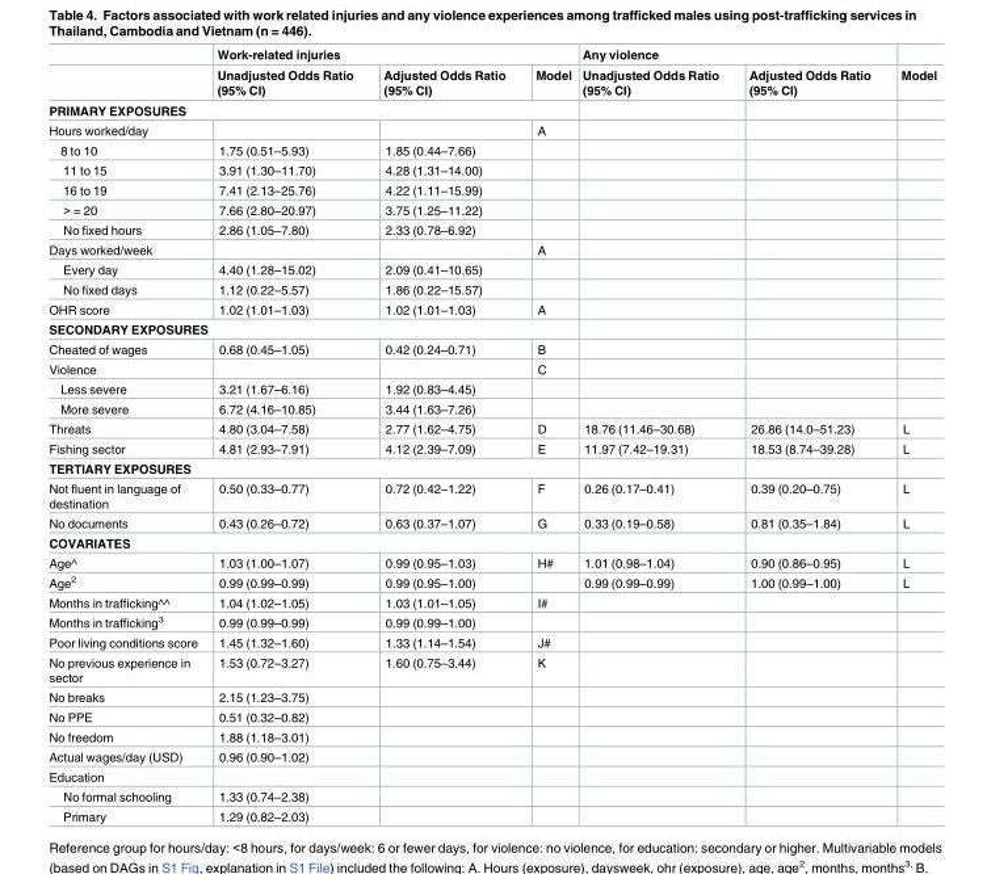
<table><thead><tr><td rowspan="2"></td><td colspan="3">Work-related injuries</td><td colspan="2">Any violence</td><td rowspan="2">Model</td></tr><tr><td>Unadjusted Odds Ratio (95% CI)</td><td>Adjusted Odds Ratio (95% CI)</td><td>Model</td><td>Unadjusted Odds Ratio (95% CI)</td><td>Adjusted Odds Ratio (95% CI)</td></tr></thead><tbody><tr><td colspan="7">PRIMARY EXPOSURES</td></tr><tr><td>Hours worked/day</td><td></td><td></td><td>A</td><td></td><td></td><td></td></tr><tr><td>8 to 10</td><td>1.75 (0.51–5.93)</td><td>1.85 (0.44–7.66)</td><td></td><td></td><td></td><td></td></tr><tr><td>11 to 15</td><td>3.91 (1.30–11.70)</td><td>4.28 (1.31–14.00)</td><td></td><td></td><td></td><td></td></tr><tr><td>16 to 19</td><td>7.41 (2.13–25.76)</td><td>4.22 (1.11–15.99)</td><td></td><td></td><td></td><td></td></tr><tr><td>&gt; = 20</td><td>7.66 (2.80–20.97)</td><td>3.75 (1.25–11.22)</td><td></td><td></td><td></td><td></td></tr><tr><td>No fixed hours</td><td>2.86 (1.05–7.80)</td><td>2.33 (0.78–6.92)</td><td></td><td></td><td></td><td></td></tr><tr><td>Days worked/week</td><td></td><td></td><td>A</td><td></td><td></td><td></td></tr><tr><td>Every day</td><td>4.40 (1.28–15.02)</td><td>2.09 (0.41–10.65)</td><td></td><td></td><td></td><td></td></tr><tr><td>No fixed days</td><td>1.12 (0.22–5.57)</td><td>1.86 (0.22–15.57)</td><td></td><td></td><td></td><td></td></tr><tr><td>OHR score</td><td>1.02 (1.01–1.03)</td><td>1.02 (1.01–1.03)</td><td>A</td><td></td><td></td><td></td></tr><tr><td colspan="7">SECONDARY EXPOSURES</td></tr><tr><td>Cheated of wages</td><td>0.68 (0.45–1.05)</td><td>0.42 (0.24–0.71)</td><td>B</td><td></td><td></td><td></td></tr><tr><td>Violence</td><td></td><td></td><td>C</td><td></td><td></td><td></td></tr><tr><td>Less severe</td><td>3.21 (1.67–6.16)</td><td>1.92 (0.83–4.45)</td><td></td><td></td><td></td><td></td></tr><tr><td>More severe</td><td>6.72 (4.16–10.85)</td><td>3.44 (1.63–7.26)</td><td></td><td></td><td></td><td></td></tr><tr><td>Threats</td><td>4.80 (3.04–7.58)</td><td>2.77 (1.62–4.75)</td><td>D</td><td>18.76 (11.46–30.68)</td><td>26.86 (14.0–51.23)</td><td>L</td></tr><tr><td>Fishing sector</td><td>4.81 (2.93–7.91)</td><td>4.12 (2.39–7.09)</td><td>E</td><td>11.97 (7.42–19.31)</td><td>18.53 (8.74–39.28)</td><td>L</td></tr><tr><td colspan="7">TERTIARY EXPOSURES</td></tr><tr><td>Not fluent in language of destination</td><td>0.50 (0.33–0.77)</td><td>0.72 (0.42–1.22)</td><td>F</td><td>0.26 (0.17–0.41)</td><td>0.39 (0.20–0.75)</td><td>L</td></tr><tr><td>No documents</td><td>0.43 (0.26–0.72)</td><td>0.63 (0.37–1.07)</td><td>G</td><td>0.33 (0.19–0.58)</td><td>0.81 (0.35–1.84)</td><td>L</td></tr><tr><td colspan="7">COVARIATES</td></tr><tr><td>Age^</td><td>1.03 (1.00–1.07)</td><td>0.99 (0.95–1.03)</td><td>H#</td><td>1.01 (0.98–1.04)</td><td>0.90 (0.86–0.95)</td><td>L</td></tr><tr><td>Age<sup>2</sup></td><td>0.99 (0.99–0.99)</td><td>0.99 (0.95–1.00)</td><td></td><td>0.99 (0.99–0.99)</td><td>1.00 (0.99–1.00)</td><td>L</td></tr><tr><td>Months in trafficking^^</td><td>1.04 (1.02–1.05)</td><td>1.03 (1.01–1.05)</td><td>I#</td><td></td><td></td><td></td></tr><tr><td>Months in trafficking<sup>3</sup></td><td>0.99 (0.99–0.99)</td><td>0.99 (0.99–1.00)</td><td></td><td></td><td></td><td></td></tr><tr><td>Poor living conditions score</td><td>1.45 (1.32–1.60)</td><td>1.33 (1.14–1.54)</td><td>J#</td><td></td><td></td><td></td></tr><tr><td>No previous experience in sector</td><td>1.53 (0.72–3.27)</td><td>1.60 (0.75–3.44)</td><td>K</td><td></td><td></td><td></td></tr><tr><td>No breaks</td><td>2.15 (1.23–3.75)</td><td></td><td></td><td></td><td></td><td></td></tr><tr><td>No PPE</td><td>0.51 (0.32–0.82)</td><td></td><td></td><td></td><td></td><td></td></tr><tr><td>No freedom</td><td>1.88 (1.18–3.01)</td><td></td><td></td><td></td><td></td><td></td></tr><tr><td>Actual wages/day (USD)</td><td>0.96 (0.90–1.02)</td><td></td><td></td><td></td><td></td><td></td></tr><tr><td colspan="7">Education</td></tr><tr><td>No formal schooling</td><td>1.33 (0.74–2.38)</td><td></td><td></td><td></td><td></td><td></td></tr><tr><td>Primary</td><td>1.29 (0.82–2.03)</td><td></td><td></td><td></td><td></td><td></td></tr></tbody></table>